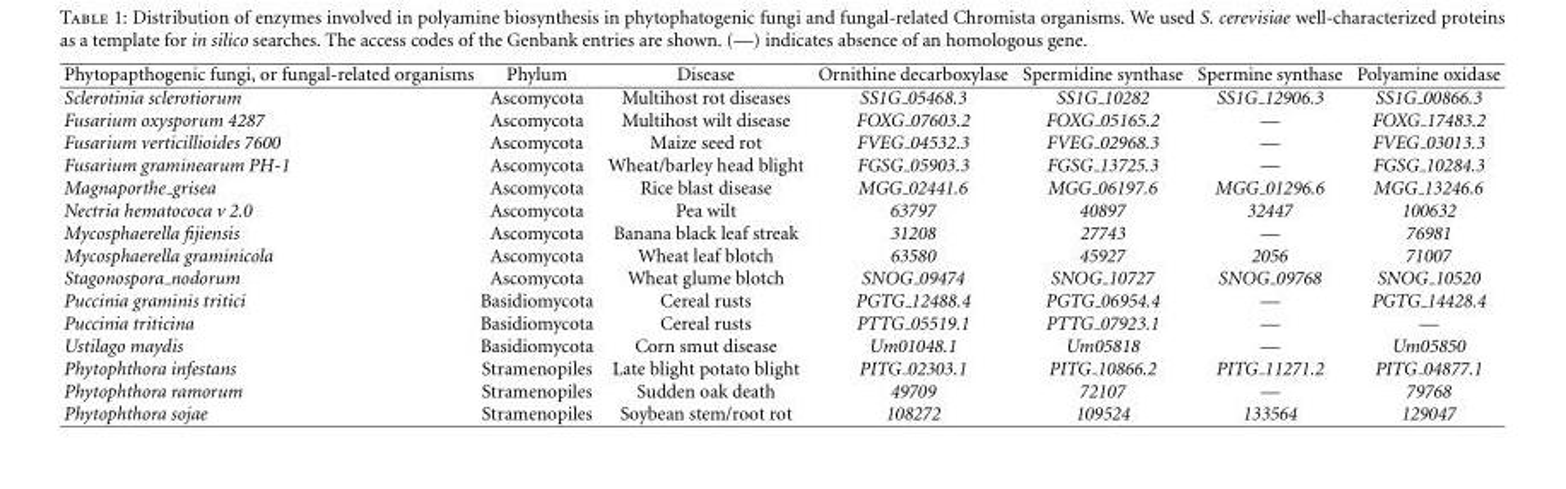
<table><thead><tr><td>Phytopapthogenic fungi, or fungal-related organisms</td><td>Phylum</td><td>Disease</td><td>Ornithine decarboxylase</td><td>Spermidine synthase</td><td>Spermine synthase</td><td>Polyamine oxidase</td></tr></thead><tbody><tr><td>Sclerotinia sclerotiorum</td><td>Ascomycota</td><td>Multihost rot diseases</td><td>SS1G 05468.3</td><td>SS1G 10282</td><td>SS1G 12906.3</td><td>SS1G 00866.3</td></tr><tr><td>Fusarium oxysporum 4287</td><td>Ascomycota</td><td>Multihost wilt disease</td><td>FOXG 07603.2</td><td>FOXG 05165.2</td><td>—</td><td>FOXG 17483.2</td></tr><tr><td>Fusarium verticillioides 7600</td><td>Ascomycota</td><td>Maize seed rot</td><td>FVEG 04532.3</td><td>FVEG 02968.3</td><td>—</td><td>FVEG 03013.3</td></tr><tr><td>Fusarium graminearum PH-1</td><td>Ascomycota</td><td>Wheat/barley head blight</td><td>FGSG 05903.3</td><td>FGSG 13725.3</td><td>—</td><td>FGSG 10284.3</td></tr><tr><td>Magnaporthe grisea</td><td>Ascomycota</td><td>Rice blast disease</td><td>MGG 02441.6</td><td>MGG 06197.6</td><td>MGG 01296.6</td><td>MGG 13246.6</td></tr><tr><td>Nectria hematococa v 2.0</td><td>Ascomycota</td><td>Pea wilt</td><td>63797</td><td>40897</td><td>32447</td><td>100632</td></tr><tr><td>Mycosphaerella fijiensis</td><td>Ascomycota</td><td>Banana black leaf streak</td><td>31208</td><td>27743</td><td>—</td><td>76981</td></tr><tr><td>Mycosphaerella graminicola</td><td>Ascomycota</td><td>Wheat leaf blotch</td><td>63580</td><td>45927</td><td>2056</td><td>71007</td></tr><tr><td>Stagonospora nodorum</td><td>Ascomycota</td><td>Wheat glume blotch</td><td>SNOG 09474</td><td>SNOG 10727</td><td>SNOG 09768</td><td>SNOG 10520</td></tr><tr><td>Puccinia graminis tritici</td><td>Basidiomycota</td><td>Cereal rusts</td><td>PGTG 12488.4</td><td>PGTG 06954.4</td><td>—</td><td>PGTG 14428.4</td></tr><tr><td>Puccinia triticina</td><td>Basidiomycota</td><td>Cereal rusts</td><td>PTTG 05519.1</td><td>PTTG 07923.1</td><td>—</td><td>—</td></tr><tr><td>Ustilago maydis</td><td>Basidiomycota</td><td>Corn smut disease</td><td>Um01048.1</td><td>Um05818</td><td>—</td><td>Um05850</td></tr><tr><td>Phytophthora infestans</td><td>Stramenopiles</td><td>Late blight potato blight</td><td>PITG 02303.1</td><td>PITG 10866.2</td><td>PITG 11271.2</td><td>PITG 04877.1</td></tr><tr><td>Phytophthora ramorum</td><td>Stramenopiles</td><td>Sudden oak death</td><td>49709</td><td>72107</td><td>—</td><td>79768</td></tr><tr><td>Phytophthora sojae</td><td>Stramenopiles</td><td>Soybean stem/root rot</td><td>108272</td><td>109524</td><td>133564</td><td>129047</td></tr></tbody></table>